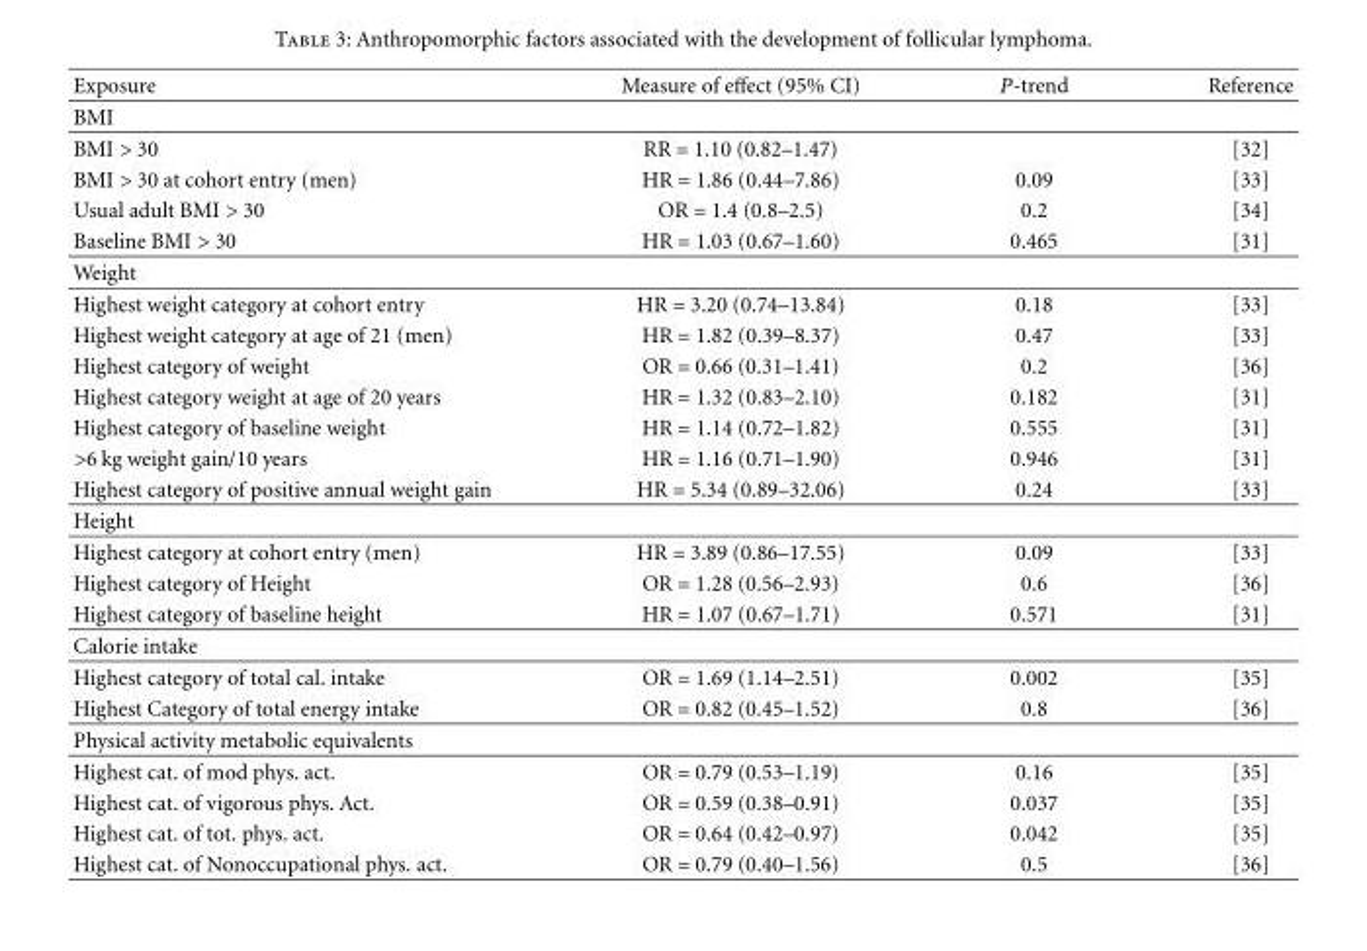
<table><thead><tr><td>Exposure</td><td>Measure of effect (95% CI)</td><td>P-trend</td><td>Reference</td></tr></thead><tbody><tr><td colspan="4">BMI</td></tr><tr><td>BMI &gt; 30</td><td>RR = 1.10 (0.82–1.47)</td><td></td><td>[32]</td></tr><tr><td>BMI &gt; 30 at cohort entry (men)</td><td>HR = 1.86 (0.44–7.86)</td><td>0.09</td><td>[33]</td></tr><tr><td>Usual adult BMI &gt; 30</td><td>OR = 1.4 (0.8–2.5)</td><td>0.2</td><td>[34]</td></tr><tr><td>Baseline BMI &gt; 30</td><td>HR = 1.03 (0.67–1.60)</td><td>0.465</td><td>[31]</td></tr><tr><td colspan="4">Weight</td></tr><tr><td>Highest weight category at cohort entry</td><td>HR = 3.20 (0.74–13.84)</td><td>0.18</td><td>[33]</td></tr><tr><td>Highest weight category at age of 21 (men)</td><td>HR = 1.82 (0.39–8.37)</td><td>0.47</td><td>[33]</td></tr><tr><td>Highest category of weight</td><td>OR = 0.66 (0.31–1.41)</td><td>0.2</td><td>[36]</td></tr><tr><td>Highest category weight at age of 20 years</td><td>HR = 1.32 (0.83–2.10)</td><td>0.182</td><td>[31]</td></tr><tr><td>Highest category of baseline weight</td><td>HR = 1.14 (0.72–1.82)</td><td>0.555</td><td>[31]</td></tr><tr><td>&gt;6 kg weight gain/10 years</td><td>HR = 1.16 (0.71–1.90)</td><td>0.946</td><td>[31]</td></tr><tr><td>Highest category of positive annual weight gain</td><td>HR = 5.34 (0.89–32.06)</td><td>0.24</td><td>[33]</td></tr><tr><td colspan="4">Height</td></tr><tr><td>Highest category at cohort entry (men)</td><td>HR = 3.89 (0.86–17.55)</td><td>0.09</td><td>[33]</td></tr><tr><td>Highest category of Height</td><td>OR = 1.28 (0.56–2.93)</td><td>0.6</td><td>[36]</td></tr><tr><td>Highest category of baseline height</td><td>HR = 1.07 (0.67–1.71)</td><td>0.571</td><td>[31]</td></tr><tr><td colspan="4">Calorie intake</td></tr><tr><td>Highest category of total cal. intake</td><td>OR = 1.69 (1.14–2.51)</td><td>0.002</td><td>[35]</td></tr><tr><td>Highest Category of total energy intake</td><td>OR = 0.82 (0.45–1.52)</td><td>0.8</td><td>[36]</td></tr><tr><td colspan="4">Physical activity metabolic equivalents</td></tr><tr><td>Highest cat. of mod phys. act.</td><td>OR = 0.79 (0.53–1.19)</td><td>0.16</td><td>[35]</td></tr><tr><td>Highest cat. of vigorous phys. Act.</td><td>OR = 0.59 (0.38–0.91)</td><td>0.037</td><td>[35]</td></tr><tr><td>Highest cat. of tot. phys. act.</td><td>OR = 0.64 (0.42–0.97)</td><td>0.042</td><td>[35]</td></tr><tr><td>Highest cat. of Nonoccupational phys. act.</td><td>OR = 0.79 (0.40–1.56)</td><td>0.5</td><td>[36]</td></tr></tbody></table>